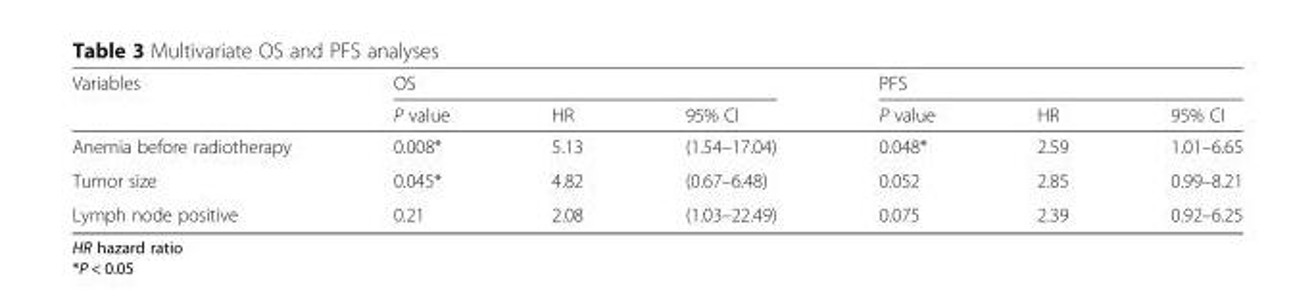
<table><thead><tr><td rowspan="2">Variables</td><td colspan="3">OS</td><td colspan="3">PFS</td></tr><tr><td>P value</td><td>HR</td><td>95% CI</td><td>P value</td><td>HR</td><td>95% CI</td></tr></thead><tbody><tr><td>Anemia before radiotherapy</td><td>0.008*</td><td>5.13</td><td>(1.54–17.04)</td><td>0.048*</td><td>2.59</td><td>1.01–6.65</td></tr><tr><td>Tumor size</td><td>0.045*</td><td>4.82</td><td>(0.67–6.48)</td><td>0.052</td><td>2.85</td><td>0.99–8.21</td></tr><tr><td>Lymph node positive</td><td>0.21</td><td>2.08</td><td>(1.03–22.49)</td><td>0.075</td><td>2.39</td><td>0.92–6.25</td></tr></tbody></table>